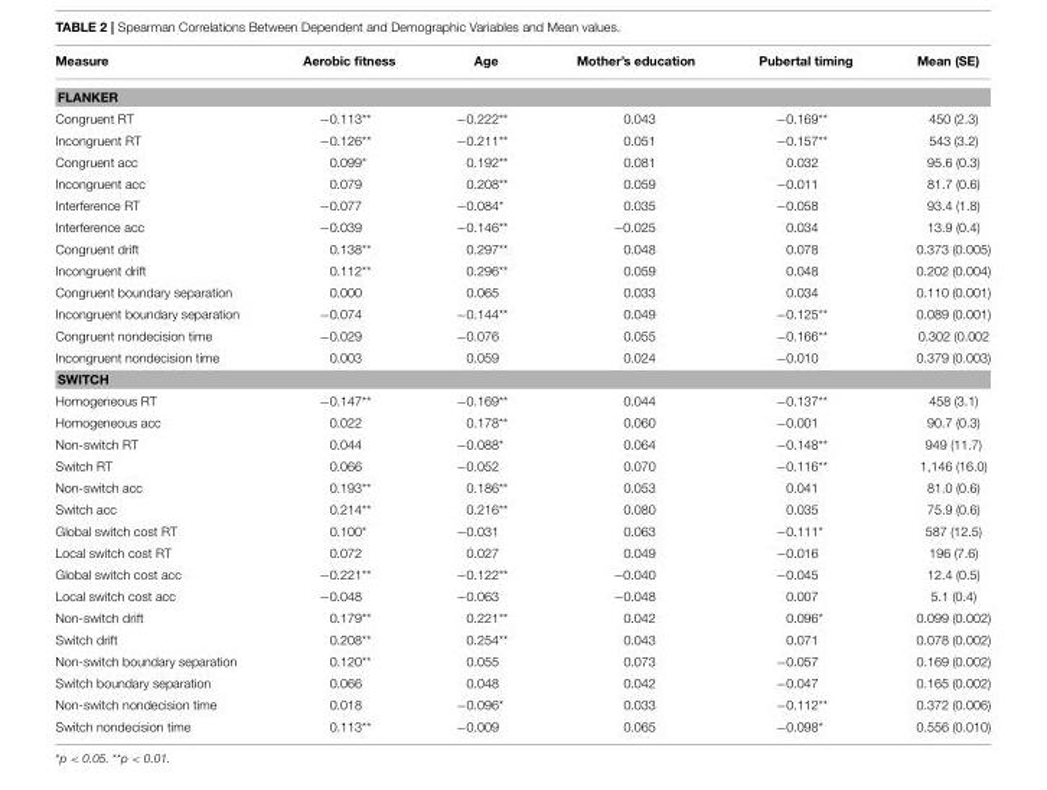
<table><thead><tr><td>Measure</td><td>Aerobic fitness</td><td>Age</td><td>Mother’s education</td><td>Pubertal timing</td><td>Mean (SE)</td></tr></thead><tbody><tr><td colspan="6">FLANKER</td></tr><tr><td>Congruent RT</td><td>−0.113**</td><td>−0.222**</td><td>0.043</td><td>−0.169**</td><td>450 (2.3)</td></tr><tr><td>Incongruent RT</td><td>−0.126**</td><td>−0.211**</td><td>0.051</td><td>−0.157**</td><td>543 (3.2)</td></tr><tr><td>Congruent acc</td><td>0.099*</td><td>0.192**</td><td>0.081</td><td>0.032</td><td>95.6 (0.3)</td></tr><tr><td>Incongruent acc</td><td>0.079</td><td>0.208**</td><td>0.059</td><td>−0.011</td><td>81.7 (0.6)</td></tr><tr><td>Interference RT</td><td>−0.077</td><td>−0.084*</td><td>0.035</td><td>−0.058</td><td>93.4 (1.8)</td></tr><tr><td>Interference acc</td><td>−0.039</td><td>−0.146**</td><td>−0.025</td><td>0.034</td><td>13.9 (0.4)</td></tr><tr><td>Congruent drift</td><td>0.138**</td><td>0.297**</td><td>0.048</td><td>0.078</td><td>0.373 (0.005)</td></tr><tr><td>Incongruent drift</td><td>0.112**</td><td>0.296**</td><td>0.059</td><td>0.048</td><td>0.202 (0.004)</td></tr><tr><td>Congruent boundary separation</td><td>0.000</td><td>0.065</td><td>0.033</td><td>0.034</td><td>0.110 (0.001)</td></tr><tr><td>Incongruent boundary separation</td><td>−0.074</td><td>−0.144**</td><td>0.049</td><td>−0.125**</td><td>0.089 (0.001)</td></tr><tr><td>Congruent nondecision time</td><td>−0.029</td><td>−0.076</td><td>0.055</td><td>−0.166**</td><td>0.302 (0.002</td></tr><tr><td>Incongruent nondecision time</td><td>0.003</td><td>0.059</td><td>0.024</td><td>−0.010</td><td>0.379 (0.003)</td></tr><tr><td colspan="6">SWITCH</td></tr><tr><td>Homogeneous RT</td><td>−0.147**</td><td>−0.169**</td><td>0.044</td><td>−0.137**</td><td>458 (3.1)</td></tr><tr><td>Homogeneous acc</td><td>0.022</td><td>0.178**</td><td>0.060</td><td>−0.001</td><td>90.7 (0.3)</td></tr><tr><td>Non-switch RT</td><td>0.044</td><td>−0.088*</td><td>0.064</td><td>−0.148**</td><td>949 (11.7)</td></tr><tr><td>Switch RT</td><td>0.066</td><td>−0.052</td><td>0.070</td><td>−0.116**</td><td>1,146 (16.0)</td></tr><tr><td>Non-switch acc</td><td>0.193**</td><td>0.186**</td><td>0.053</td><td>0.041</td><td>81.0 (0.6)</td></tr><tr><td>Switch acc</td><td>0.214**</td><td>0.216**</td><td>0.080</td><td>0.035</td><td>75.9 (0.6)</td></tr><tr><td>Global switch cost RT</td><td>0.100*</td><td>−0.031</td><td>0.063</td><td>−0.111*</td><td>587 (12.5)</td></tr><tr><td>Local switch cost RT</td><td>0.072</td><td>0.027</td><td>0.049</td><td>−0.016</td><td>196 (7.6)</td></tr><tr><td>Global switch cost acc</td><td>−0.221**</td><td>−0.122**</td><td>−0.040</td><td>−0.045</td><td>12.4 (0.5)</td></tr><tr><td>Local switch cost acc</td><td>−0.048</td><td>−0.063</td><td>−0.048</td><td>0.007</td><td>5.1 (0.4)</td></tr><tr><td>Non-switch drift</td><td>0.179**</td><td>0.221**</td><td>0.042</td><td>0.096*</td><td>0.099 (0.002)</td></tr><tr><td>Switch drift</td><td>0.208**</td><td>0.254**</td><td>0.043</td><td>0.071</td><td>0.078 (0.002)</td></tr><tr><td>Non-switch boundary separation</td><td>0.120**</td><td>0.055</td><td>0.073</td><td>−0.057</td><td>0.169 (0.002)</td></tr><tr><td>Switch boundary separation</td><td>0.066</td><td>0.048</td><td>0.042</td><td>−0.047</td><td>0.165 (0.002)</td></tr><tr><td>Non-switch nondecision time</td><td>0.018</td><td>−0.096*</td><td>0.033</td><td>−0.112**</td><td>0.372 (0.006)</td></tr><tr><td>Switch nondecision time</td><td>0.113**</td><td>−0.009</td><td>0.065</td><td>−0.098*</td><td>0.556 (0.010)</td></tr></tbody></table>